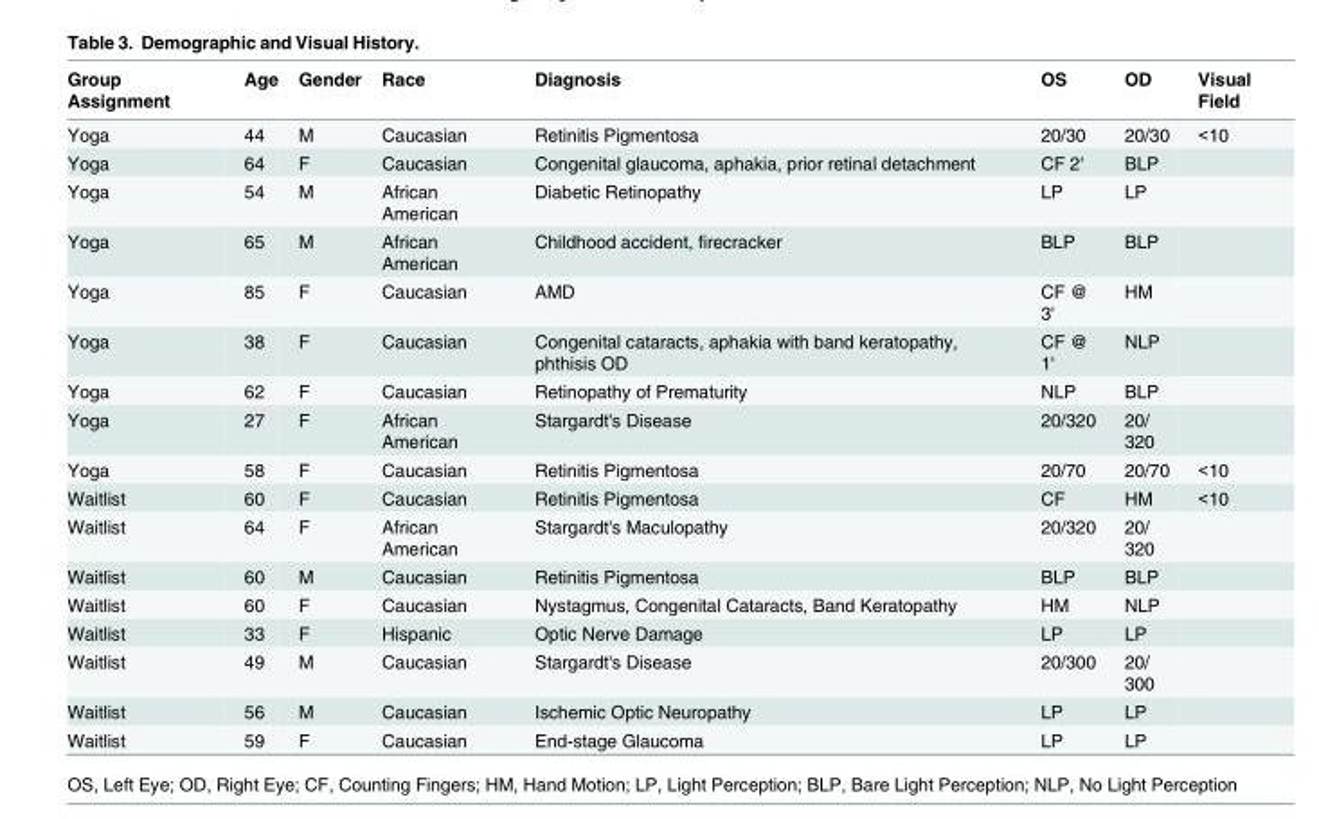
<table><thead><tr><td>Group Assignment</td><td>Age</td><td>Gender</td><td>Race</td><td>Diagnosis</td><td>OS</td><td>OD</td><td>Visual Field</td></tr></thead><tbody><tr><td>Yoga</td><td>44</td><td>M</td><td>Caucasian</td><td>Retinitis Pigmentosa</td><td>20/30</td><td>20/30</td><td>&lt;10</td></tr><tr><td>Yoga</td><td>64</td><td>F</td><td>Caucasian</td><td>Congenital glaucoma, aphakia, prior retinal detachment</td><td>CF 2&#x27;</td><td>BLP</td><td></td></tr><tr><td>Yoga</td><td>54</td><td>M</td><td>African American</td><td>Diabetic Retinopathy</td><td>LP</td><td>LP</td><td></td></tr><tr><td>Yoga</td><td>65</td><td>M</td><td>African American</td><td>Childhood accident, firecracker</td><td>BLP</td><td>BLP</td><td></td></tr><tr><td>Yoga</td><td>85</td><td>F</td><td>Caucasian</td><td>AMD</td><td>CF @ 3&#x27;</td><td>HM</td><td></td></tr><tr><td>Yoga</td><td>38</td><td>F</td><td>Caucasian</td><td>Congenital cataracts, aphakia with band keratopathy, phthisis OD</td><td>CF @ 1&#x27;</td><td>NLP</td><td></td></tr><tr><td>Yoga</td><td>62</td><td>F</td><td>Caucasian</td><td>Retinopathy of Prematurity</td><td>NLP</td><td>BLP</td><td></td></tr><tr><td>Yoga</td><td>27</td><td>F</td><td>African American</td><td>Stargardt&#x27;s Disease</td><td>20/320</td><td>20/ 320</td><td></td></tr><tr><td>Yoga</td><td>58</td><td>F</td><td>Caucasian</td><td>Retinitis Pigmentosa</td><td>20/70</td><td>20/70</td><td>&lt;10</td></tr><tr><td>Waitlist</td><td>60</td><td>F</td><td>Caucasian</td><td>Retinitis Pigmentosa</td><td>CF</td><td>HM</td><td>&lt;10</td></tr><tr><td>Waitlist</td><td>64</td><td>F</td><td>African American</td><td>Stargardt&#x27;s Maculopathy</td><td>20/320</td><td>20/ 320</td><td></td></tr><tr><td>Waitlist</td><td>60</td><td>M</td><td>Caucasian</td><td>Retinitis Pigmentosa</td><td>BLP</td><td>BLP</td><td></td></tr><tr><td>Waitlist</td><td>60</td><td>F</td><td>Caucasian</td><td>Nystagmus, Congenital Cataracts, Band Keratopathy</td><td>HM</td><td>NLP</td><td></td></tr><tr><td>Waitlist</td><td>33</td><td>F</td><td>Hispanic</td><td>Optic Nerve Damage</td><td>LP</td><td>LP</td><td></td></tr><tr><td>Waitlist</td><td>49</td><td>M</td><td>Caucasian</td><td>Stargardt&#x27;s Disease</td><td>20/300</td><td>20/ 300</td><td></td></tr><tr><td>Waitlist</td><td>56</td><td>M</td><td>Caucasian</td><td>Ischemic Optic Neuropathy</td><td>LP</td><td>LP</td><td></td></tr><tr><td>Waitlist</td><td>59</td><td>F</td><td>Caucasian</td><td>End-stage Glaucoma</td><td>LP</td><td>LP</td><td></td></tr></tbody></table>